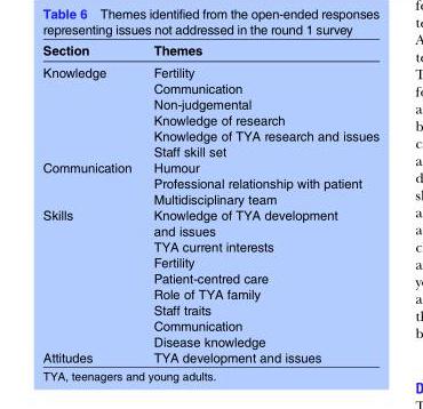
<table><thead><tr><td>Section</td><td>Themes</td></tr></thead><tbody><tr><td>Knowledge</td><td>Fertility Communication Non-judgemental Knowledge of research Knowledge of TYA research and issues Staff skill set</td></tr><tr><td>Communication</td><td>Humour Professional relationship with patient Multidisciplinary team</td></tr><tr><td>Skills</td><td>Knowledge of TYA development and issues TYA current interests Fertility Patient-centred care Role of TYA family Staff traits Communication Disease knowledge</td></tr><tr><td>Attitudes</td><td>TYA development and issues</td></tr></tbody></table>